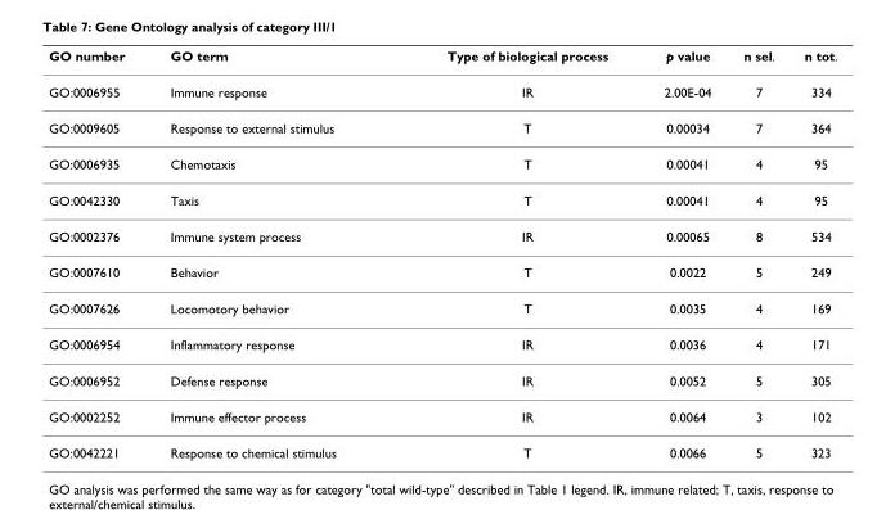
<table><thead><tr><td>GO number</td><td>GO term</td><td>Type of biological process</td><td>p value</td><td>n sel.</td><td>n tot.</td></tr></thead><tbody><tr><td>GO:0006955</td><td>Immune response</td><td>IR</td><td>2.00E-04</td><td>7</td><td>334</td></tr><tr><td>GO:0009605</td><td>Response to external stimulus</td><td>T</td><td>0.00034</td><td>7</td><td>364</td></tr><tr><td>GO:0006935</td><td>Chemotaxis</td><td>T</td><td>0.00041</td><td>4</td><td>95</td></tr><tr><td>GO:0042330</td><td>Taxis</td><td>T</td><td>0.00041</td><td>4</td><td>95</td></tr><tr><td>GO:0002376</td><td>Immune system process</td><td>IR</td><td>0.00065</td><td>8</td><td>534</td></tr><tr><td>GO:0007610</td><td>Behavior</td><td>T</td><td>0.0022</td><td>5</td><td>249</td></tr><tr><td>GO:0007626</td><td>Locomotory behavior</td><td>T</td><td>0.0035</td><td>4</td><td>169</td></tr><tr><td>GO:0006954</td><td>Inflammatory response</td><td>IR</td><td>0.0036</td><td>4</td><td>171</td></tr><tr><td>GO:0006952</td><td>Defense response</td><td>IR</td><td>0.0052</td><td>5</td><td>305</td></tr><tr><td>GO:0002252</td><td>Immune effector process</td><td>IR</td><td>0.0064</td><td>3</td><td>102</td></tr><tr><td>GO:0042221</td><td>Response to chemical stimulus</td><td>T</td><td>0.0066</td><td>5</td><td>323</td></tr></tbody></table>